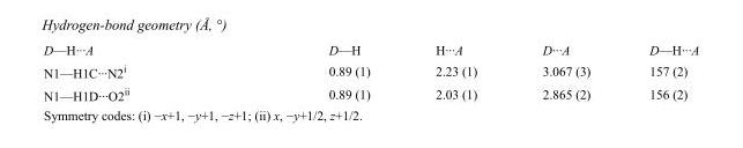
<table><tbody><tr><td>D—H···A</td><td>D—H</td><td>H···A</td><td>D···A</td><td>D—H···A</td></tr><tr><td>N1—H1C···N2<sup>i</sup></td><td>0.89 (1)</td><td>2.23 (1)</td><td>3.067 (3)</td><td>157 (2)</td></tr><tr><td>N1—H1D···O2<sup>ii</sup></td><td>0.89 (1)</td><td>2.03 (1)</td><td>2.865 (2)</td><td>156 (2)</td></tr></tbody></table>